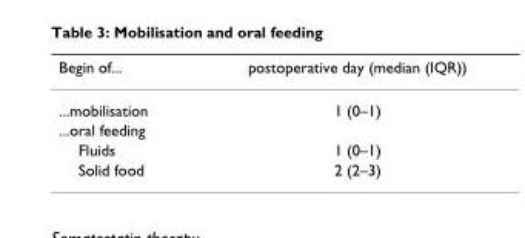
<table><thead><tr><td>Begin of...</td><td>postoperative day (median (IQR))</td></tr></thead><tbody><tr><td>...mobilisation</td><td>1 (0–1)</td></tr><tr><td colspan="2">...oral feeding</td></tr><tr><td>Fluids</td><td>1 (0–1)</td></tr><tr><td>Solid food</td><td>2 (2–3)</td></tr></tbody></table>